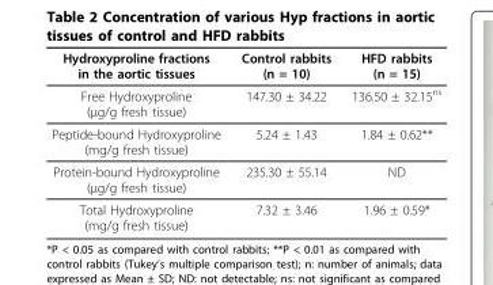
<table><thead><tr><td>Hydroxyproline fractions in the aortic tissues</td><td>Control rabbits (n = 10)</td><td>HFD rabbits (n = 15)</td></tr></thead><tbody><tr><td>Free Hydroxyproline (μg/g fresh tissue)</td><td>147.30 ± 34.22</td><td>136.50 ± 32.15<sup>ns</sup></td></tr><tr><td>Peptide-bound Hydroxyproline (mg/g fresh tissue)</td><td>5.24 ± 1.43</td><td>1.84 ± 0.62**</td></tr><tr><td>Protein-bound Hydroxyproline (μg/g fresh tissue)</td><td>235.30 ± 55.14</td><td>ND</td></tr><tr><td>Total Hydroxyproline (mg/g fresh tissue)</td><td>7.32 ± 3.46</td><td>1.96 ± 0.59*</td></tr></tbody></table>